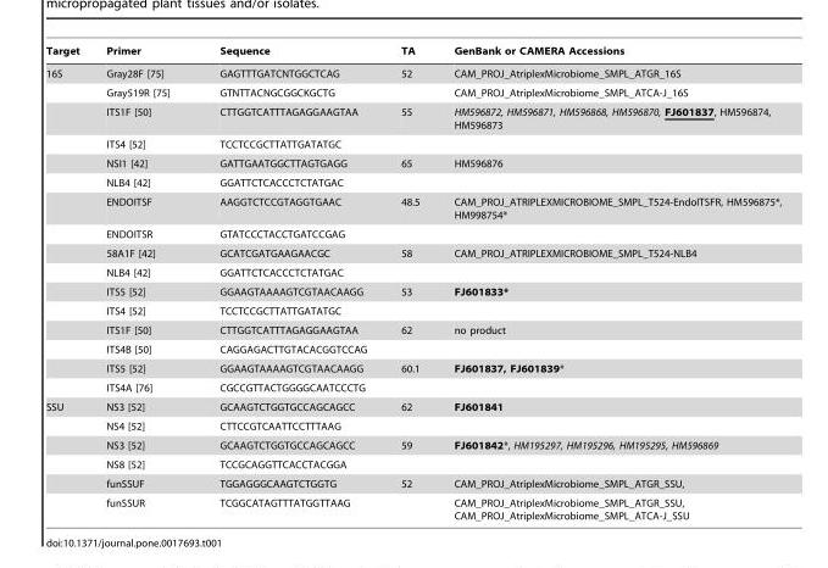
<table><thead><tr><td>Target</td><td>Primer</td><td>Sequence</td><td>TA</td><td>GenBank or CAMERA Accessions</td></tr></thead><tbody><tr><td rowspan="16">16S</td><td>Gray28F [75]</td><td>GAGTTTGATCNTGGCTCAG</td><td>52</td><td>CAM_PROJ_AtriplexMicrobiome_SMPL_ATGR_16S</td></tr><tr><td>Gray519R [75]</td><td>GTNTTACNGCGGCKGCTG</td><td></td><td>CAM_PROJ_AtriplexMicrobiome_SMPL_ATCA-J_16S</td></tr><tr><td>ITS1F [50]</td><td>CTTGGTCATTTAGAGGAAGTAA</td><td>55</td><td>HM596872, HM596871, HM596868, HM596870, FJ601837, HM596874, HM596873</td></tr><tr><td>ITS4 [52]</td><td>TCCTCCGCTTATTGATATGC</td><td></td><td></td></tr><tr><td>NSI1 [42]</td><td>GATTGAATGGCTTAGTGAGG</td><td>65</td><td>HM596876</td></tr><tr><td>NLB4 [42]</td><td>GGATTCTCACCCTCTATGAC</td><td></td><td></td></tr><tr><td>ENDOITSF</td><td>AAGGTCTCCGTAGGTGAAC</td><td>48.5</td><td>CAM_PROJ_ATRIPLEXMICROBIOME_SMPL_T524-EndoITSFR, HM596875*, HM998754*</td></tr><tr><td>ENDOITSR</td><td>GTATCCCTACCTGATCCGAG</td><td></td><td></td></tr><tr><td>58A1F [42]</td><td>GCATCGATGAAGAACGC</td><td>58</td><td>CAM_PROJ_ATRIPLEXMICROBIOME_SMPL_T524-NLB4</td></tr><tr><td>NLB4 [42]</td><td>GGATTCTCACCCTCTATGAC</td><td></td><td></td></tr><tr><td>ITS5 [52]</td><td>GGAAGTAAAAGTCGTAACAAGG</td><td>53</td><td>FJ601833*</td></tr><tr><td>ITS4 [52]</td><td>TCCTCCGCTTATTGATATGC</td><td></td><td></td></tr><tr><td>ITS1F [50]</td><td>CTTGGTCATTTAGAGGAAGTAA</td><td>62</td><td>no product</td></tr><tr><td>ITS4B [50]</td><td>CAGGAGACTTGTACACGGTCCAG</td><td></td><td></td></tr><tr><td>ITS5 [52]</td><td>GGAAGTAAAAGTCGTAACAAGG</td><td>60.1</td><td>FJ601837, FJ601839*</td></tr><tr><td>ITS4A [76]</td><td>CGCCGTTACTGGGGCAATCCCTG</td><td></td><td></td></tr><tr><td rowspan="6">SSU</td><td>NS3 [52]</td><td>GCAAGTCTGGTGCCAGCAGCC</td><td>62</td><td>FJ601841</td></tr><tr><td>NS4 [52]</td><td>CTTCCGTCAATTCCTTTAAG</td><td></td><td></td></tr><tr><td>NS3 [52]</td><td>GCAAGTCTGGTGCCAGCAGCC</td><td>59</td><td>FJ601842*, HM195297, HM195296, HM195295, HM596869</td></tr><tr><td>NS8 [52]</td><td>TCCGCAGGTTCACCTACGGA</td><td></td><td></td></tr><tr><td>funSSUF</td><td>TGGAGGGCAAGTCTGGTG</td><td>52</td><td>CAM_PROJ_AtriplexMicrobiome_SMPL_ATGR_SSU,</td></tr><tr><td>funSSUR</td><td>TCGGCATAGTTTATGGTTAAG</td><td></td><td>CAM_PROJ_AtriplexMicrobiome_SMPL_ATGR_SSU, CAM_PROJ_AtriplexMicrobiome_SMPL_ATCA-J_SSU</td></tr></tbody></table>